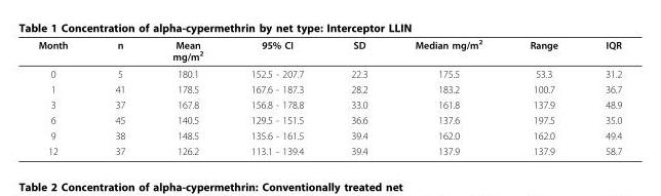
<table><thead><tr><td>Month</td><td>n</td><td>Mean mg/m<sup>2</sup></td><td>95% CI</td><td>SD</td><td>Median mg/m<sup>2</sup></td><td>Range</td><td>IQR</td></tr></thead><tbody><tr><td>0</td><td>5</td><td>180.1</td><td>152.5 - 207.7</td><td>22.3</td><td>175.5</td><td>53.3</td><td>31.2</td></tr><tr><td>1</td><td>41</td><td>178.5</td><td>167.6 - 187.3</td><td>28.2</td><td>183.2</td><td>100.7</td><td>36.7</td></tr><tr><td>3</td><td>37</td><td>167.8</td><td>156.8 - 178.8</td><td>33.0</td><td>161.8</td><td>137.9</td><td>48.9</td></tr><tr><td>6</td><td>45</td><td>140.5</td><td>129.5 - 151.5</td><td>36.6</td><td>137.6</td><td>197.5</td><td>35.0</td></tr><tr><td>9</td><td>38</td><td>148.5</td><td>135.6 - 161.5</td><td>39.4</td><td>162.0</td><td>162.0</td><td>49.4</td></tr><tr><td>12</td><td>37</td><td>126.2</td><td>113.1 - 139.4</td><td>39.4</td><td>137.9</td><td>137.9</td><td>58.7</td></tr></tbody></table>